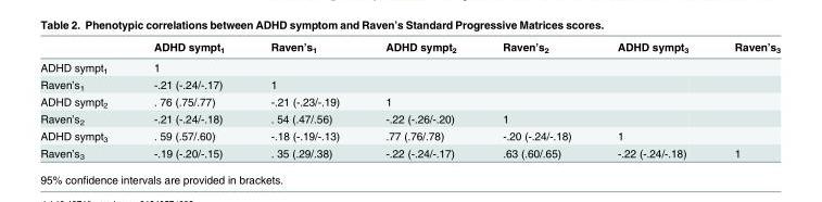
<table><thead><tr><td></td><td>ADHD sympt<sub>1</sub></td><td>Raven’s<sub>1</sub></td><td>ADHD sympt<sub>2</sub></td><td>Raven’s<sub>2</sub></td><td>ADHD sympt<sub>3</sub></td><td>Raven’s<sub>3</sub></td></tr></thead><tbody><tr><td>ADHD sympt<sub>1</sub></td><td>1</td><td></td><td></td><td></td><td></td><td></td></tr><tr><td>Raven’s<sub>1</sub></td><td>-.21 (-.24/-.17)</td><td>1</td><td></td><td></td><td></td><td></td></tr><tr><td>ADHD sympt<sub>2</sub></td><td>. 76 (.75/.77)</td><td>-.21 (-.23/-.19)</td><td>1</td><td></td><td></td><td></td></tr><tr><td>Raven’s<sub>2</sub></td><td>-.21 (-.24/-.18)</td><td>. 54 (.47/.56)</td><td>-.22 (-.26/-.20)</td><td>1</td><td></td><td></td></tr><tr><td>ADHD sympt<sub>3</sub></td><td>. 59 (.57/.60)</td><td>-.18 (-.19/-.13)</td><td>.77 (.76/.78)</td><td>-.20 (-.24/-.18)</td><td>1</td><td></td></tr><tr><td>Raven’s<sub>3</sub></td><td>-.19 (-.20/-.15)</td><td>. 35 (.29/.38)</td><td>-.22 (-.24/-.17)</td><td>.63 (.60/.65)</td><td>-.22 (-.24/-.18)</td><td>1</td></tr></tbody></table>